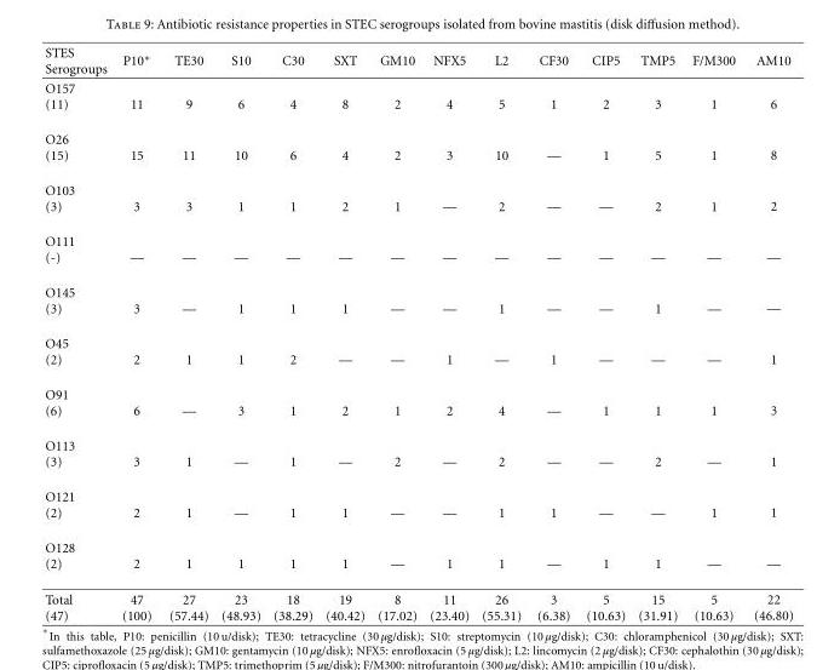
<table><thead><tr><td>STES Serogroups</td><td>P10∗</td><td>TE30</td><td>S10</td><td>C30</td><td>SXT</td><td>GM10</td><td>NFX5</td><td>L2</td><td>CF30</td><td>CIP5</td><td>TMP5</td><td>F/M300</td><td>AM10</td></tr></thead><tbody><tr><td>O157 (11)</td><td>11</td><td>9</td><td>6</td><td>4</td><td>8</td><td>2</td><td>4</td><td>5</td><td>1</td><td>2</td><td>3</td><td>1</td><td>6</td></tr><tr><td>O26 (15)</td><td>15</td><td>11</td><td>10</td><td>6</td><td>4</td><td>2</td><td>3</td><td>10</td><td>—</td><td>1</td><td>5</td><td>1</td><td>8</td></tr><tr><td>O103 (3)</td><td>3</td><td>3</td><td>1</td><td>1</td><td>2</td><td>1</td><td>—</td><td>2</td><td>—</td><td>—</td><td>2</td><td>1</td><td>2</td></tr><tr><td>O111 (-)</td><td>—</td><td>—</td><td>—</td><td>—</td><td>—</td><td>—</td><td>—</td><td>—</td><td>—</td><td>—</td><td>—</td><td>—</td><td>—</td></tr><tr><td>O145 (3)</td><td>3</td><td>—</td><td>1</td><td>1</td><td>1</td><td>—</td><td>—</td><td>1</td><td>—</td><td>—</td><td>1</td><td>—</td><td>—</td></tr><tr><td>O45 (2)</td><td>2</td><td>1</td><td>1</td><td>2</td><td>—</td><td>—</td><td>1</td><td>—</td><td>1</td><td>—</td><td>—</td><td>—</td><td>1</td></tr><tr><td>O91 (6)</td><td>6</td><td>—</td><td>3</td><td>1</td><td>2</td><td>1</td><td>2</td><td>4</td><td>—</td><td>1</td><td>1</td><td>1</td><td>3</td></tr><tr><td>O113 (3)</td><td>3</td><td>1</td><td>—</td><td>1</td><td>—</td><td>2</td><td>—</td><td>2</td><td>—</td><td>—</td><td>2</td><td>—</td><td>1</td></tr><tr><td>O121 (2)</td><td>2</td><td>1</td><td>—</td><td>1</td><td>1</td><td>—</td><td>—</td><td>1</td><td>1</td><td>—</td><td>—</td><td>1</td><td>1</td></tr><tr><td>O128 (2)</td><td>2</td><td>1</td><td>1</td><td>1</td><td>1</td><td>—</td><td>1</td><td>1</td><td>—</td><td>1</td><td>1</td><td>—</td><td>—</td></tr><tr><td>Total (47)</td><td>47 (100)</td><td>27 (57.44)</td><td>23 (48.93)</td><td>18 (38.29)</td><td>19 (40.42)</td><td>8 (17.02)</td><td>11 (23.40)</td><td>26 (55.31)</td><td>3 (6.38)</td><td>5 (10.63)</td><td>15 (31.91)</td><td>5 (10.63)</td><td>22 (46.80)</td></tr></tbody></table>